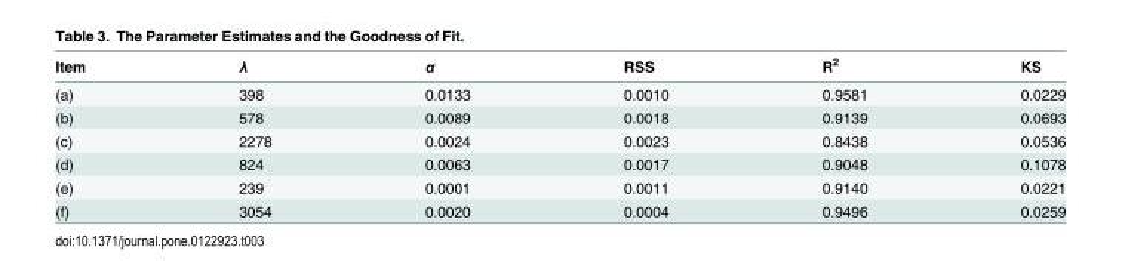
<table><thead><tr><td>Item</td><td>λ</td><td>α</td><td>RSS</td><td>R<sup>2</sup></td><td>KS</td></tr></thead><tbody><tr><td>(a)</td><td>398</td><td>0.0133</td><td>0.0010</td><td>0.9581</td><td>0.0229</td></tr><tr><td>(b)</td><td>578</td><td>0.0089</td><td>0.0018</td><td>0.9139</td><td>0.0693</td></tr><tr><td>(c)</td><td>2278</td><td>0.0024</td><td>0.0023</td><td>0.8438</td><td>0.0536</td></tr><tr><td>(d)</td><td>824</td><td>0.0063</td><td>0.0017</td><td>0.9048</td><td>0.1078</td></tr><tr><td>(e)</td><td>239</td><td>0.0001</td><td>0.0011</td><td>0.9140</td><td>0.0221</td></tr><tr><td>(f)</td><td>3054</td><td>0.0020</td><td>0.0004</td><td>0.9496</td><td>0.0259</td></tr></tbody></table>